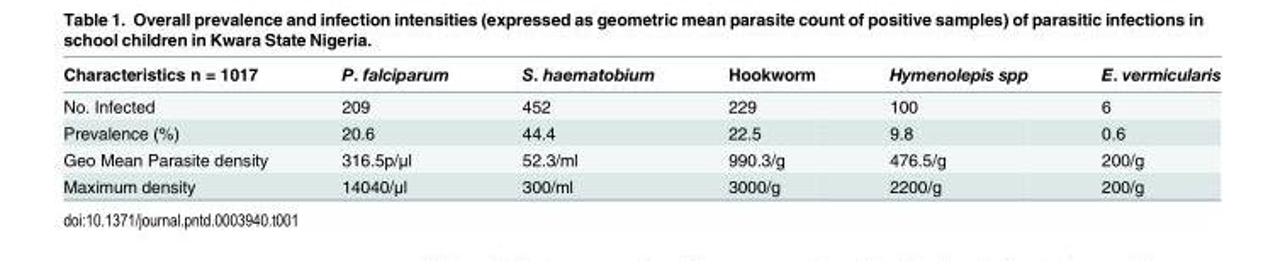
<table><thead><tr><td>Characteristics n = 1017</td><td>P. falciparum</td><td>S. haematobium</td><td>Hookworm</td><td>Hymenolepis spp</td><td>E. vermicularis</td></tr></thead><tbody><tr><td>No. Infected</td><td>209</td><td>452</td><td>229</td><td>100</td><td>6</td></tr><tr><td>Prevalence (%)</td><td>20.6</td><td>44.4</td><td>22.5</td><td>9.8</td><td>0.6</td></tr><tr><td>Geo Mean Parasite density</td><td>316.5p/μl</td><td>52.3/ml</td><td>990.3/g</td><td>476.5/g</td><td>200/g</td></tr><tr><td>Maximum density</td><td>14040/μl</td><td>300/ml</td><td>3000/g</td><td>2200/g</td><td>200/g</td></tr></tbody></table>